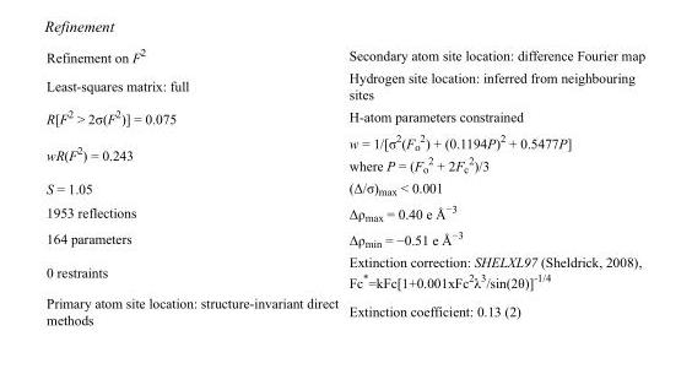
<table><tbody><tr><td>Refinement on F<sup>2</sup></td><td>Secondary atom site location: difference Fourier map</td></tr><tr><td>Least-squares matrix: full</td><td>Hydrogen site location: inferred from neighbouring sites</td></tr><tr><td>R[F<sup>2</sup> &gt; 2σ(F<sup>2</sup>)] = 0.075</td><td>H-atom parameters constrained</td></tr><tr><td>wR(F<sup>2</sup>) = 0.243</td><td>w = 1/[σ<sup>2</sup>(F<sub>o</sub> <sup>2</sup>) + (0.1194P)<sup>2</sup> + 0.5477P] where P = (F<sub>o</sub> <sup>2</sup> + 2F<sub>c</sub> <sup>2</sup>)/3</td></tr><tr><td>S = 1.05</td><td>(Δ/σ)<sub>max</sub> &lt; 0.001</td></tr><tr><td>1953 reflections</td><td>Δρ<sub>max</sub> = 0.40 e Å<sup>−3</sup></td></tr><tr><td>164 parameters</td><td>Δρ<sub>min</sub> = −0.51 e Å<sup>−3</sup></td></tr><tr><td>0 restraints</td><td>Extinction correction: SHELXL97 (Sheldrick, 2008), Fc*=kFc[1+0.001xFc<sup>2</sup>λ<sup>3</sup>/sin(2θ)]<sup>-1/4</sup></td></tr><tr><td>Primary atom site location: structure-invariant direct methods</td><td>Extinction coefficient: 0.13 (2)</td></tr></tbody></table>